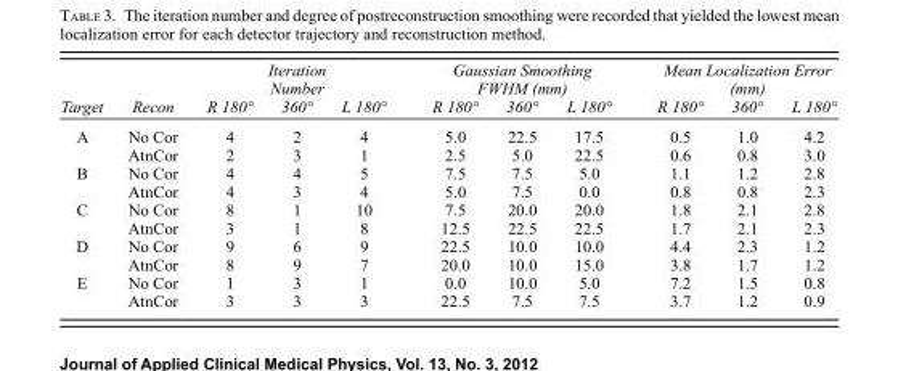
<table><thead><tr><td rowspan="2">Target</td><td rowspan="2">Recon</td><td rowspan="2">R 180°</td><td rowspan="2">Iteration Number 360°</td><td rowspan="2">L 180°</td><td colspan="3">Gaussian Smoothing FWHM (mm)</td><td colspan="3">Mean Localization Error (mm)</td></tr><tr><td>R 180°</td><td>360°</td><td>L 180°</td><td>R 180°</td><td>360°</td><td>L 180°</td></tr></thead><tbody><tr><td rowspan="2">A</td><td>No Cor</td><td>4</td><td>2</td><td>4</td><td>5.0</td><td>22.5</td><td>17.5</td><td>0.5</td><td>1.0</td><td>4.2</td></tr><tr><td>AtnCor</td><td>2</td><td>3</td><td>1</td><td>2.5</td><td>5.0</td><td>22.5</td><td>0.6</td><td>0.8</td><td>3.0</td></tr><tr><td rowspan="2">B</td><td>No Cor</td><td>4</td><td>4</td><td>5</td><td>7.5</td><td>7.5</td><td>5.0</td><td>1.1</td><td>1.2</td><td>2.8</td></tr><tr><td>AtnCor</td><td>4</td><td>3</td><td>4</td><td>5.0</td><td>7.5</td><td>0.0</td><td>0.8</td><td>0.8</td><td>2.3</td></tr><tr><td rowspan="2">C</td><td>No Cor</td><td>8</td><td>1</td><td>10</td><td>7.5</td><td>20.0</td><td>20.0</td><td>1.8</td><td>2.1</td><td>2.8</td></tr><tr><td>AtnCor</td><td>3</td><td>1</td><td>8</td><td>12.5</td><td>22.5</td><td>22.5</td><td>1.7</td><td>2.1</td><td>2.3</td></tr><tr><td rowspan="2">D</td><td>No Cor</td><td>9</td><td>6</td><td>9</td><td>22.5</td><td>10.0</td><td>10.0</td><td>4.4</td><td>2.3</td><td>1.2</td></tr><tr><td>AtnCor</td><td>8</td><td>9</td><td>7</td><td>20.0</td><td>10.0</td><td>15.0</td><td>3.8</td><td>1.7</td><td>1.2</td></tr><tr><td rowspan="2">E</td><td>No Cor</td><td>1</td><td>3</td><td>1</td><td>0.0</td><td>10.0</td><td>5.0</td><td>7.2</td><td>1.5</td><td>0.8</td></tr><tr><td>AtnCor</td><td>3</td><td>3</td><td>3</td><td>22.5</td><td>7.5</td><td>7.5</td><td>3.7</td><td>1.2</td><td>0.9</td></tr></tbody></table>